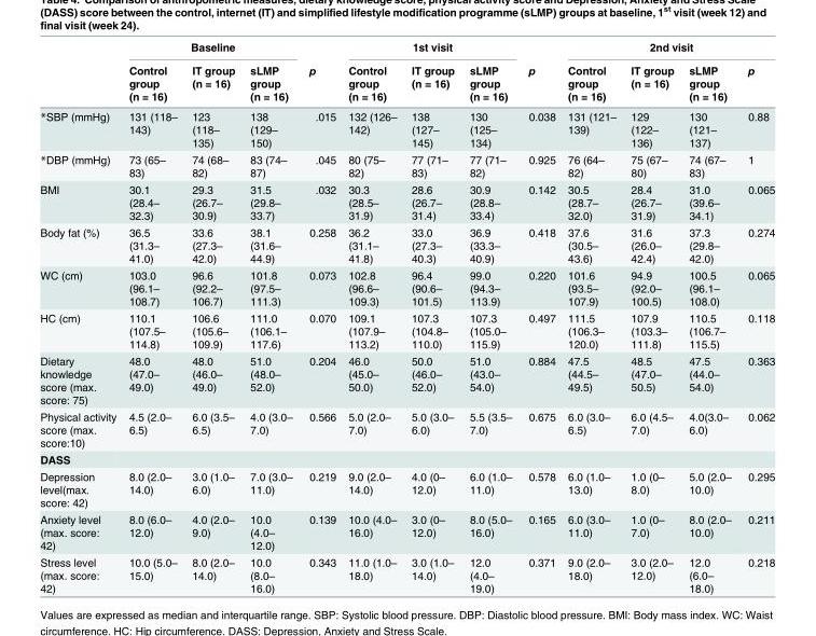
<table><thead><tr><td rowspan="2"></td><td colspan="3">Baseline</td><td rowspan="2">p</td><td colspan="3">1st visit</td><td rowspan="2">p</td><td colspan="4">2nd visit</td></tr><tr><td>Control group (n = 16)</td><td>IT group (n = 16)</td><td>sLMP group (n = 16)</td><td>Control group (n = 16)</td><td>IT group (n = 16)</td><td>sLMP group (n = 16)</td><td>Control group (n = 16)</td><td>IT group (n = 16)</td><td>sLMP group (n = 16)</td><td>p</td></tr></thead><tbody><tr><td>*SBP (mmHg)</td><td>131 (118– 143)</td><td>123 (118– 135)</td><td>138 (129– 150)</td><td>.015</td><td>132 (126– 142)</td><td>138 (127– 145)</td><td>130 (125– 134)</td><td>0.038</td><td>131 (121– 139)</td><td>129 (122– 136)</td><td>130 (121– 137)</td><td>0.88</td></tr><tr><td>*DBP (mmHg)</td><td>73 (65– 83)</td><td>74 (68– 82)</td><td>83 (74– 87)</td><td>.045</td><td>80 (75– 82)</td><td>77 (71– 83)</td><td>77 (71– 82)</td><td>0.925</td><td>76 (64– 82)</td><td>75 (67– 80)</td><td>74 (67– 83)</td><td>1</td></tr><tr><td>BMI</td><td>30.1 (28.4– 32.3)</td><td>29.3 (26.7– 30.9)</td><td>31.5 (29.8– 33.7)</td><td>.032</td><td>30.3 (28.5– 31.9)</td><td>28.6 (26.7– 31.4)</td><td>30.9 (28.8– 33.4)</td><td>0.142</td><td>30.5 (28.7– 32.0)</td><td>28.4 (26.7– 31.9)</td><td>31.0 (39.6– 34.1)</td><td>0.065</td></tr><tr><td>Body fat (%)</td><td>36.5 (31.3– 41.0)</td><td>33.6 (27.3– 42.0)</td><td>38.1 (31.6– 44.9)</td><td>0.258</td><td>36.2 (31.1– 41.8)</td><td>33.0 (27.3– 40.3)</td><td>36.9 (33.3– 40.9)</td><td>0.418</td><td>37.6 (30.5– 43.6)</td><td>31.6 (26.0– 42.4)</td><td>37.3 (29.8– 42.0)</td><td>0.274</td></tr><tr><td>WC (cm)</td><td>103.0 (96.1– 108.7)</td><td>96.6 (92.2– 106.7)</td><td>101.8 (97.5– 111.3)</td><td>0.073</td><td>102.8 (96.6– 109.3)</td><td>96.4 (90.6– 101.5)</td><td>99.0 (94.3– 113.9)</td><td>0.220</td><td>101.6 (93.5– 107.9)</td><td>94.9 (92.0– 100.5)</td><td>100.5 (96.1– 108.0)</td><td>0.065</td></tr><tr><td>HC (cm)</td><td>110.1 (107.5– 114.8)</td><td>106.6 (105.6– 109.9)</td><td>111.0 (106.1– 117.6)</td><td>0.070</td><td>109.1 (107.9– 113.2)</td><td>107.3 (104.8– 110.0)</td><td>107.3 (105.0– 115.9)</td><td>0.497</td><td>111.5 (106.3– 120.0)</td><td>107.9 (103.3– 111.8)</td><td>110.5 (106.7– 115.5)</td><td>0.118</td></tr><tr><td>Dietary knowledge score (max. score: 75)</td><td>48.0 (47.0– 49.0)</td><td>48.0 (46.0– 49.0)</td><td>51.0 (48.0– 52.0)</td><td>0.204</td><td>46.0 (45.0– 50.0)</td><td>50.0 (46.0– 52.0)</td><td>51.0 (43.0– 54.0)</td><td>0.884</td><td>47.5 (44.5– 49.5)</td><td>48.5 (47.0– 50.5)</td><td>47.5 (44.0– 54.0)</td><td>0.363</td></tr><tr><td>Physical activity score (max. score:10)</td><td>4.5 (2.0– 6.5)</td><td>6.0 (3.5– 6.5)</td><td>4.0 (3.0– 7.0)</td><td>0.566</td><td>5.0 (2.0– 7.0)</td><td>5.0 (3.0– 6.0)</td><td>5.5 (3.5– 7.0)</td><td>0.675</td><td>6.0 (3.0– 6.5)</td><td>6.0 (4.5– 7.0)</td><td>4.0(3.0– 6.0)</td><td>0.062</td></tr><tr><td colspan="13">DASS</td></tr><tr><td>Depression level(max. score: 42)</td><td>8.0 (2.0– 14.0)</td><td>3.0 (1.0– 6.0)</td><td>7.0 (3.0– 11.0)</td><td>0.219</td><td>9.0 (2.0– 14.0)</td><td>4.0 (0– 12.0)</td><td>6.0 (1.0– 11.0)</td><td>0.578</td><td>6.0 (1.0– 13.0)</td><td>1.0 (0– 8.0)</td><td>5.0 (2.0– 10.0)</td><td>0.295</td></tr><tr><td>Anxiety level (max. score: 42)</td><td>8.0 (6.0– 12.0)</td><td>4.0 (2.0– 9.0)</td><td>10.0 (4.0– 12.0)</td><td>0.139</td><td>10.0 (4.0– 16.0)</td><td>3.0 (0– 12.0)</td><td>8.0 (5.0– 16.0)</td><td>0.165</td><td>6.0 (3.0– 11.0)</td><td>1.0 (0– 7.0)</td><td>8.0 (2.0– 10.0)</td><td>0.211</td></tr><tr><td>Stress level (max. score: 42)</td><td>10.0 (5.0– 15.0)</td><td>8.0 (2.0– 14.0)</td><td>10.0 (8.0– 16.0)</td><td>0.343</td><td>11.0 (1.0– 18.0)</td><td>3.0 (1.0– 14.0)</td><td>12.0 (4.0– 19.0)</td><td>0.371</td><td>9.0 (2.0– 18.0)</td><td>3.0 (2.0– 12.0)</td><td>12.0 (6.0– 18.0)</td><td>0.218</td></tr></tbody></table>